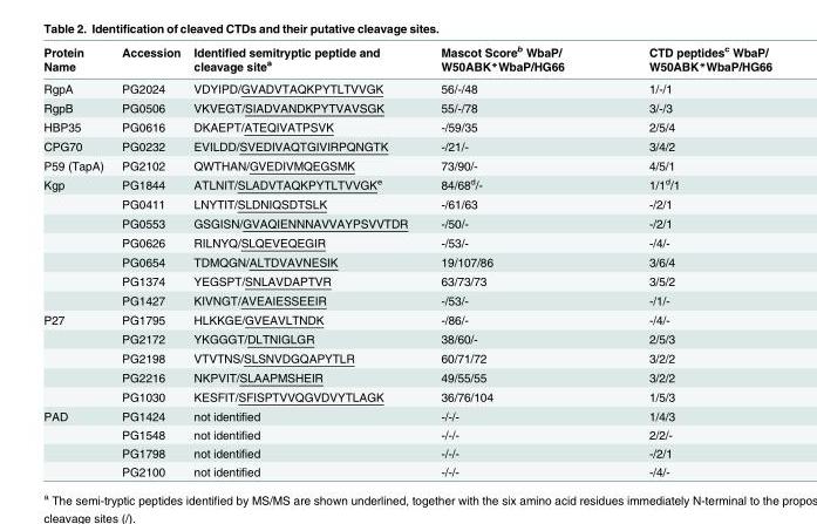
<table><thead><tr><td>Protein Name</td><td>Accession</td><td>Identified semitryptic peptide and cleavage site<sup>a</sup></td><td>Mascot Score<sup>b</sup> WbaP/ W50ABK*WbaP/HG66</td><td>CTD peptides<sup>c</sup> WbaP/ W50ABK*WbaP/HG66</td></tr></thead><tbody><tr><td>RgpA</td><td>PG2024</td><td>VDYIPD/GVADVTAQKPYTLTVVGK</td><td>56/-/48</td><td>1/-/1</td></tr><tr><td>RgpB</td><td>PG0506</td><td>VKVEGT/SIADVANDKPYTVAVSGK</td><td>55/-/78</td><td>3/-/3</td></tr><tr><td>HBP35</td><td>PG0616</td><td>DKAEPT/ATEQIVATPSVK</td><td>-/59/35</td><td>2/5/4</td></tr><tr><td>CPG70</td><td>PG0232</td><td>EVILDD/SVEDIVAQTGIVIRPQNGTK</td><td>-/21/-</td><td>3/4/2</td></tr><tr><td>P59 (TapA)</td><td>PG2102</td><td>QWTHAN/GVEDIVMQEGSMK</td><td>73/90/-</td><td>4/5/1</td></tr><tr><td rowspan="7">Kgp</td><td>PG1844</td><td>ATLNIT/SLADVTAQKPYTLTVVGK<sup>e</sup></td><td>84/68<sup>d</sup>/-</td><td>1/1<sup>d</sup>/1</td></tr><tr><td>PG0411</td><td>LNYTIT/SLDNIQSDTSLK</td><td>-/61/63</td><td>-/2/1</td></tr><tr><td>PG0553</td><td>GSGISN/GVAQIENNNAVVAYPSVVTDR</td><td>-/50/-</td><td>-/2/1</td></tr><tr><td>PG0626</td><td>RILNYQ/SLQEVEQEGIR</td><td>-/53/-</td><td>-/4/-</td></tr><tr><td>PG0654</td><td>TDMQGN/ALTDVAVNESIK</td><td>19/107/86</td><td>3/6/4</td></tr><tr><td>PG1374</td><td>YEGSPT/SNLAVDAPTVR</td><td>63/73/73</td><td>3/5/2</td></tr><tr><td>PG1427</td><td>KIVNGT/AVEAIESSEEIR</td><td>-/53/-</td><td>-/1/-</td></tr><tr><td rowspan="5">P27</td><td>PG1795</td><td>HLKKGE/GVEAVLTNDK</td><td>-/86/-</td><td>-/4/-</td></tr><tr><td>PG2172</td><td>YKGGGT/DLTNIGLGR</td><td>38/60/-</td><td>2/5/3</td></tr><tr><td>PG2198</td><td>VTVTNS/SLSNVDGQAPYTLR</td><td>60/71/72</td><td>3/2/2</td></tr><tr><td>PG2216</td><td>NKPVIT/SLAAPMSHEIR</td><td>49/55/55</td><td>3/2/2</td></tr><tr><td>PG1030</td><td>KESFIT/SFISPTVVQGVDVYTLAGK</td><td>36/76/104</td><td>1/5/3</td></tr><tr><td rowspan="4">PAD</td><td>PG1424</td><td>not identified</td><td>-/-/-</td><td>1/4/3</td></tr><tr><td>PG1548</td><td>not identified</td><td>-/-/-</td><td>2/2/-</td></tr><tr><td>PG1798</td><td>not identified</td><td>-/-/-</td><td>-/2/1</td></tr><tr><td>PG2100</td><td>not identified</td><td>-/-/-</td><td>-/4/-</td></tr></tbody></table>